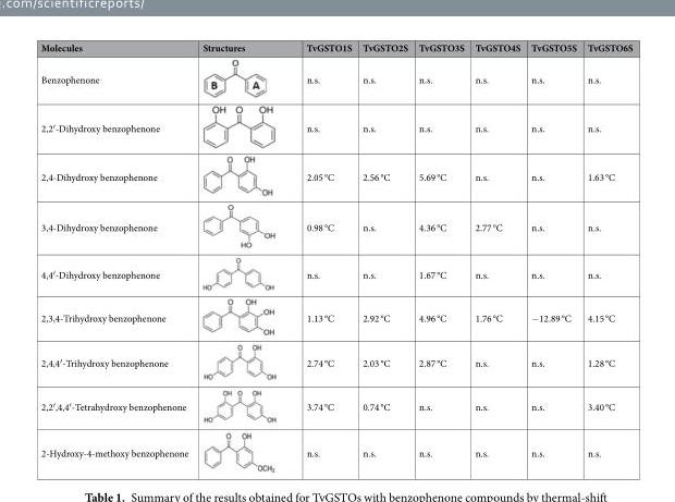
<table><thead><tr><td>Molecules</td><td>Structures</td><td>TvGSTO1S</td><td>TvGSTO2S</td><td>TvGSTO3S</td><td>TvGSTO4S</td><td>TvGSTO5S</td><td>TvGSTO6S</td></tr></thead><tbody><tr><td>Benzophenone</td><td></td><td>n.s.</td><td>n.s.</td><td>n.s.</td><td>n.s.</td><td>n.s.</td><td>n.s.</td></tr><tr><td>2,2′-Dihydroxy benzophenone</td><td></td><td>n.s.</td><td>n.s.</td><td>n.s.</td><td>n.s.</td><td>n.s.</td><td>n.s.</td></tr><tr><td>2,4-Dihydroxy benzophenone</td><td></td><td>2.05 °C</td><td>2.56 °C</td><td>5.69 °C</td><td>n.s.</td><td>n.s.</td><td>1.63 °C</td></tr><tr><td>3,4-Dihydroxy benzophenone</td><td></td><td>0.98 °C</td><td>n.s.</td><td>4.36 °C</td><td>2.77 °C</td><td>n.s.</td><td>n.s.</td></tr><tr><td>4,4′-Dihydroxy benzophenone</td><td></td><td>n.s.</td><td>n.s.</td><td>1.67 °C</td><td>n.s.</td><td>n.s.</td><td>n.s.</td></tr><tr><td>2,3,4-Trihydroxy benzophenone</td><td></td><td>1.13 °C</td><td>2.92 °C</td><td>4.96 °C</td><td>1.76 °C</td><td>−12.89 °C</td><td>4.15 °C</td></tr><tr><td>2,4,4′-Trihydroxy benzophenone</td><td></td><td>2.74 °C</td><td>2.03 °C</td><td>2.87 °C</td><td>n.s.</td><td>n.s.</td><td>1.28 °C</td></tr><tr><td>2,2′,4,4′-Tetrahydroxy benzophenone</td><td></td><td>3.74 °C</td><td>0.74 °C</td><td>n.s.</td><td>n.s.</td><td>n.s.</td><td>3.40 °C</td></tr><tr><td>2-Hydroxy-4-methoxy benzophenone</td><td></td><td>n.s.</td><td>n.s.</td><td>n.s.</td><td>n.s.</td><td>n.s.</td><td>n.s.</td></tr></tbody></table>